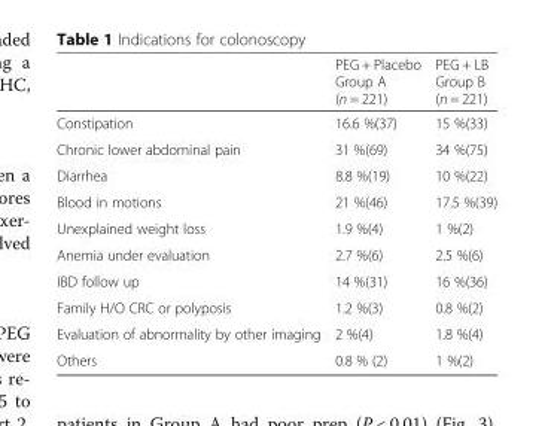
<table><thead><tr><td></td><td>PEG + Placebo Group A (n = 221)</td><td>PEG + LB Group B (n = 221)</td></tr></thead><tbody><tr><td>Constipation</td><td>16.6 %(37)</td><td>15 %(33)</td></tr><tr><td>Chronic lower abdominal pain</td><td>31 %(69)</td><td>34 %(75)</td></tr><tr><td>Diarrhea</td><td>8.8 %(19)</td><td>10 %(22)</td></tr><tr><td>Blood in motions</td><td>21 %(46)</td><td>17.5 %(39)</td></tr><tr><td>Unexplained weight loss</td><td>1.9 %(4)</td><td>1 %(2)</td></tr><tr><td>Anemia under evaluation</td><td>2.7 %(6)</td><td>2.5 %(6)</td></tr><tr><td>IBD follow up</td><td>14 %(31)</td><td>16 %(36)</td></tr><tr><td>Family H/O CRC or polyposis</td><td>1.2 %(3)</td><td>0.8 %(2)</td></tr><tr><td>Evaluation of abnormality by other imaging</td><td>2 %(4)</td><td>1.8 %(4)</td></tr><tr><td>Others</td><td>0.8 % (2)</td><td>1 %(2)</td></tr></tbody></table>